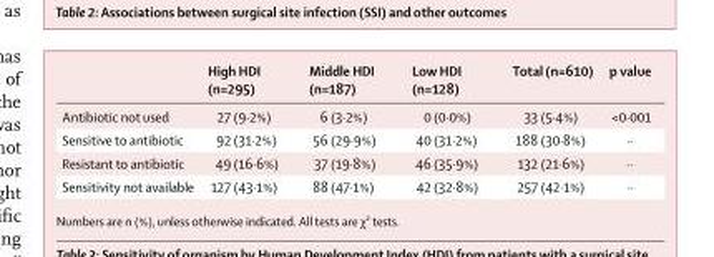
<table><thead><tr><td></td><td>High HDI (n=295)</td><td>Middle HDI (n=187)</td><td>Low HDI (n=128)</td><td>Total (n=610)</td><td>p value</td></tr></thead><tbody><tr><td>Antibiotic not used</td><td>27 (9·2%)</td><td>6 (3·2%)</td><td>0 (0·0%)</td><td>33 (5·4%)</td><td>&lt;0·001</td></tr><tr><td>Sensitive to antibiotic</td><td>92 (31·2%)</td><td>56 (29·9%)</td><td>40 (31·2%)</td><td>188 (30·8%)</td><td>··</td></tr><tr><td>Resistant to antibiotic</td><td>49 (16·6%)</td><td>37 (19·8%)</td><td>46 (35·9%)</td><td>132 (21·6%)</td><td>··</td></tr><tr><td>Sensitivity not available</td><td>127 (43·1%)</td><td>88 (47·1%)</td><td>42 (32·8%)</td><td>257 (42·1%)</td><td>··</td></tr></tbody></table>